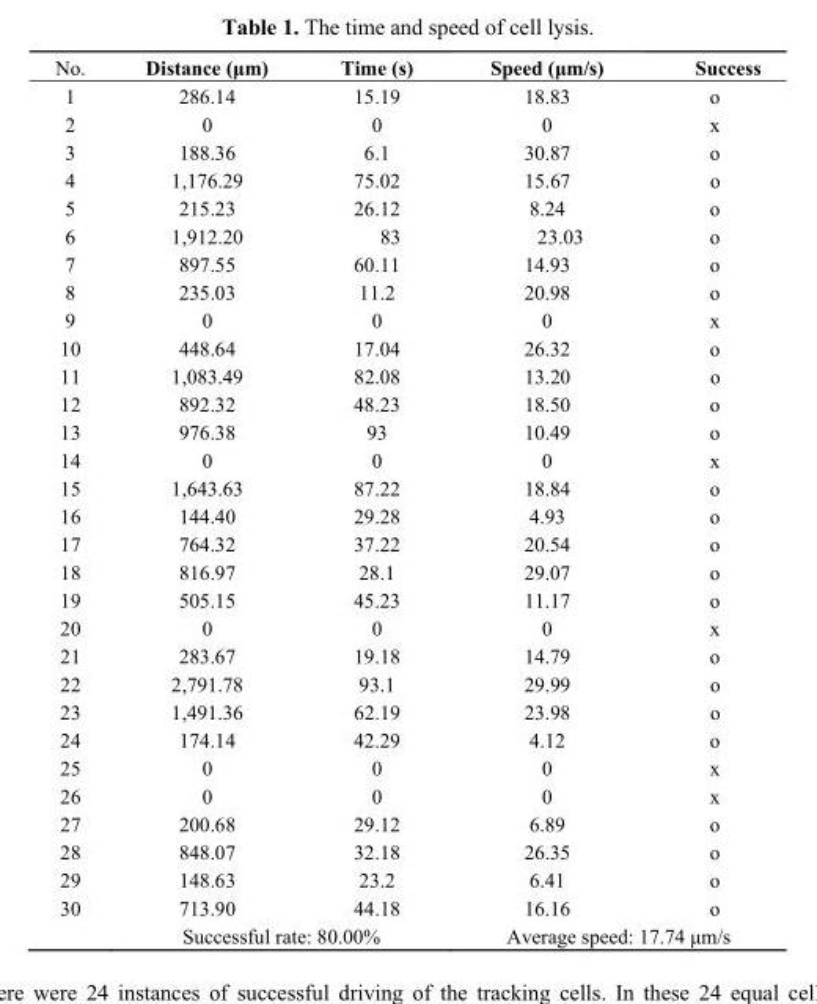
<table><thead><tr><td>No.</td><td>Distance (μm)</td><td>Time (s)</td><td>Speed (μm/s)</td><td>Success</td></tr></thead><tbody><tr><td>1</td><td>286.14</td><td>15.19</td><td>18.83</td><td>o</td></tr><tr><td>2</td><td>0</td><td>0</td><td>0</td><td>x</td></tr><tr><td>3</td><td>188.36</td><td>6.1</td><td>30.87</td><td>o</td></tr><tr><td>4</td><td>1,176.29</td><td>75.02</td><td>15.67</td><td>o</td></tr><tr><td>5</td><td>215.23</td><td>26.12</td><td>8.24</td><td>o</td></tr><tr><td>6</td><td>1,912.20</td><td>83</td><td>23.03</td><td>o</td></tr><tr><td>7</td><td>897.55</td><td>60.11</td><td>14.93</td><td>o</td></tr><tr><td>8</td><td>235.03</td><td>11.2</td><td>20.98</td><td>o</td></tr><tr><td>9</td><td>0</td><td>0</td><td>0</td><td>x</td></tr><tr><td>10</td><td>448.64</td><td>17.04</td><td>26.32</td><td>o</td></tr><tr><td>11</td><td>1,083.49</td><td>82.08</td><td>13.20</td><td>o</td></tr><tr><td>12</td><td>892.32</td><td>48.23</td><td>18.50</td><td>o</td></tr><tr><td>13</td><td>976.38</td><td>93</td><td>10.49</td><td>o</td></tr><tr><td>14</td><td>0</td><td>0</td><td>0</td><td>x</td></tr><tr><td>15</td><td>1,643.63</td><td>87.22</td><td>18.84</td><td>o</td></tr><tr><td>16</td><td>144.40</td><td>29.28</td><td>4.93</td><td>o</td></tr><tr><td>17</td><td>764.32</td><td>37.22</td><td>20.54</td><td>o</td></tr><tr><td>18</td><td>816.97</td><td>28.1</td><td>29.07</td><td>o</td></tr><tr><td>19</td><td>505.15</td><td>45.23</td><td>11.17</td><td>o</td></tr><tr><td>20</td><td>0</td><td>0</td><td>0</td><td>x</td></tr><tr><td>21</td><td>283.67</td><td>19.18</td><td>14.79</td><td>o</td></tr><tr><td>22</td><td>2,791.78</td><td>93.1</td><td>29.99</td><td>o</td></tr><tr><td>23</td><td>1,491.36</td><td>62.19</td><td>23.98</td><td>o</td></tr><tr><td>24</td><td>174.14</td><td>42.29</td><td>4.12</td><td>o</td></tr><tr><td>25</td><td>0</td><td>0</td><td>0</td><td>x</td></tr><tr><td>26</td><td>0</td><td>0</td><td>0</td><td>x</td></tr><tr><td>27</td><td>200.68</td><td>29.12</td><td>6.89</td><td>o</td></tr><tr><td>28</td><td>848.07</td><td>32.18</td><td>26.35</td><td>o</td></tr><tr><td>29</td><td>148.63</td><td>23.2</td><td>6.41</td><td>o</td></tr><tr><td rowspan="2">30</td><td>713.90</td><td>44.18</td><td>16.16</td><td>o</td></tr><tr><td colspan="2">Successful rate: 80.00%</td><td colspan="2">Average speed: 17.74 μm/s</td></tr></tbody></table>